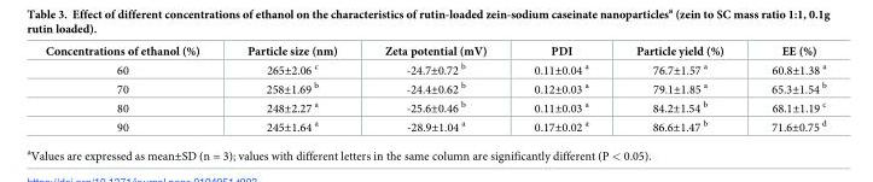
<table><thead><tr><td>Concentrations of ethanol (%)</td><td>Particle size (nm)</td><td>Zeta potential (mV)</td><td>PDI</td><td>Particle yield (%)</td><td>EE (%)</td></tr></thead><tbody><tr><td>60</td><td>265±2.06 <sup>c</sup></td><td>-24.7±0.72 <sup>b</sup></td><td>0.11±0.04 <sup>a</sup></td><td>76.7±1.57 <sup>a</sup></td><td>60.8±1.38 <sup>a</sup></td></tr><tr><td>70</td><td>258±1.69 <sup>b</sup></td><td>-24.4±0.62 <sup>b</sup></td><td>0.12±0.03 <sup>a</sup></td><td>79.1±1.85 <sup>a</sup></td><td>65.3±1.54 <sup>b</sup></td></tr><tr><td>80</td><td>248±2.27 <sup>a</sup></td><td>-25.6±0.46 <sup>b</sup></td><td>0.11±0.03 <sup>a</sup></td><td>84.2±1.54 <sup>b</sup></td><td>68.1±1.19 <sup>c</sup></td></tr><tr><td>90</td><td>245±1.64 <sup>a</sup></td><td>-28.9±1.04 <sup>a</sup></td><td>0.17±0.02 <sup>a</sup></td><td>86.6±1.47 <sup>b</sup></td><td>71.6±0.75 <sup>d</sup></td></tr></tbody></table>